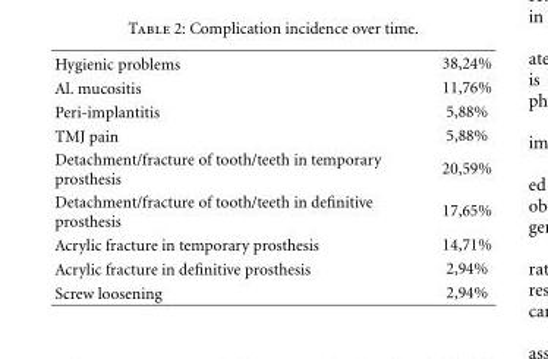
<table><tbody><tr><td>Hygienic problems</td><td>38,24%</td></tr><tr><td>Al. mucositis</td><td>11,76%</td></tr><tr><td>Peri-implantitis</td><td>5,88%</td></tr><tr><td>TMJ pain</td><td>5,88%</td></tr><tr><td>Detachment/fracture of tooth/teeth in temporary prosthesis</td><td>20,59%</td></tr><tr><td>Detachment/fracture of tooth/teeth in definitive prosthesis</td><td>17,65%</td></tr><tr><td>Acrylic fracture in temporary prosthesis</td><td>14,71%</td></tr><tr><td>Acrylic fracture in definitive prosthesis</td><td>2,94%</td></tr><tr><td>Screw loosening</td><td>2,94%</td></tr></tbody></table>